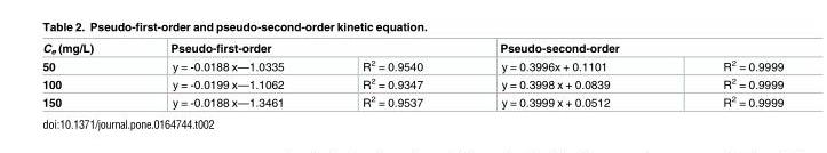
<table><thead><tr><td rowspan="2">C<sub>e</sub> (mg/L) 50</td><td colspan="2">Pseudo-first-order</td><td colspan="2">Pseudo-second-order</td></tr><tr><td>y = -0.0188 x—1.0335</td><td>R<sup>2</sup> = 0.9540</td><td>y = 0.3996x + 0.1101</td><td>R<sup>2</sup> = 0.9999</td></tr></thead><tbody><tr><td>100</td><td>y = -0.0199 x—1.1062</td><td>R<sup>2</sup> = 0.9347</td><td>y = 0.3998 x + 0.0839</td><td>R<sup>2</sup> = 0.9999</td></tr><tr><td>150</td><td>y = -0.0188 x—1.3461</td><td>R<sup>2</sup> = 0.9537</td><td>y = 0.3999 x + 0.0512</td><td>R<sup>2</sup> = 0.9999</td></tr></tbody></table>